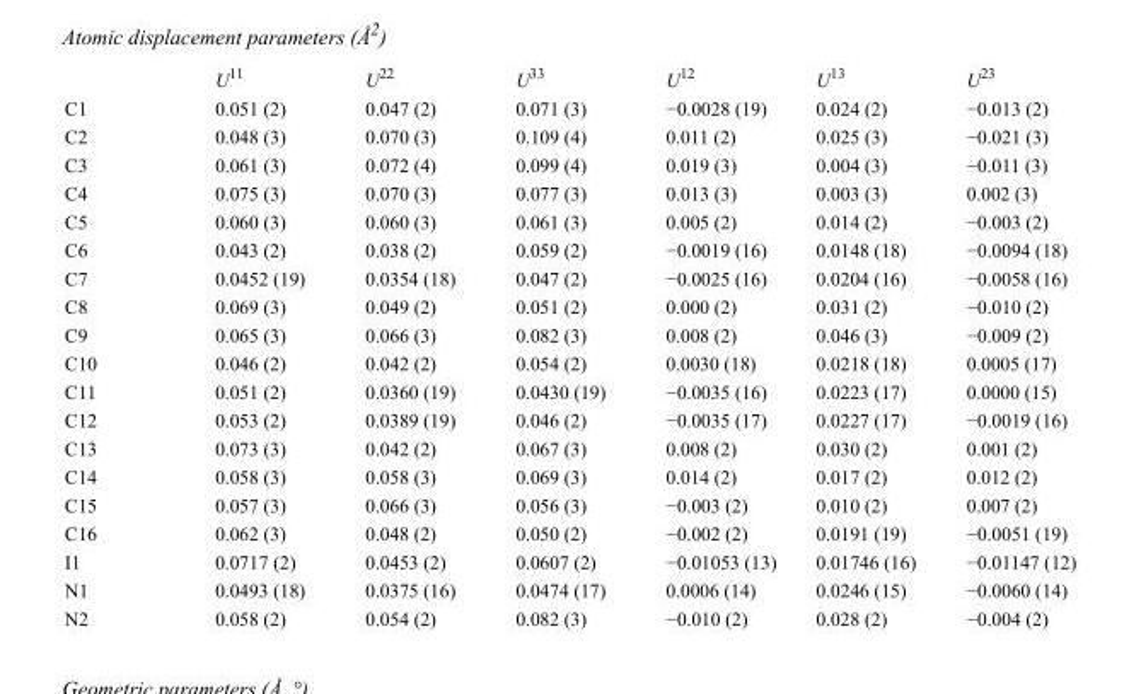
<table><thead><tr><td></td><td>U<sup>11</sup></td><td>U<sup>22</sup></td><td>U<sup>33</sup></td><td>U<sup>12</sup></td><td>U<sup>13</sup></td><td>U<sup>23</sup></td></tr></thead><tbody><tr><td>C1</td><td>0.051 (2)</td><td>0.047 (2)</td><td>0.071 (3)</td><td>−0.0028 (19)</td><td>0.024 (2)</td><td>−0.013 (2)</td></tr><tr><td>C2</td><td>0.048 (3)</td><td>0.070 (3)</td><td>0.109 (4)</td><td>0.011 (2)</td><td>0.025 (3)</td><td>−0.021 (3)</td></tr><tr><td>C3</td><td>0.061 (3)</td><td>0.072 (4)</td><td>0.099 (4)</td><td>0.019 (3)</td><td>0.004 (3)</td><td>−0.011 (3)</td></tr><tr><td>C4</td><td>0.075 (3)</td><td>0.070 (3)</td><td>0.077 (3)</td><td>0.013 (3)</td><td>0.003 (3)</td><td>0.002 (3)</td></tr><tr><td>C5</td><td>0.060 (3)</td><td>0.060 (3)</td><td>0.061 (3)</td><td>0.005 (2)</td><td>0.014 (2)</td><td>−0.003 (2)</td></tr><tr><td>C6</td><td>0.043 (2)</td><td>0.038 (2)</td><td>0.059 (2)</td><td>−0.0019 (16)</td><td>0.0148 (18)</td><td>−0.0094 (18)</td></tr><tr><td>C7</td><td>0.0452 (19)</td><td>0.0354 (18)</td><td>0.047 (2)</td><td>−0.0025 (16)</td><td>0.0204 (16)</td><td>−0.0058 (16)</td></tr><tr><td>C8</td><td>0.069 (3)</td><td>0.049 (2)</td><td>0.051 (2)</td><td>0.000 (2)</td><td>0.031 (2)</td><td>−0.010 (2)</td></tr><tr><td>C9</td><td>0.065 (3)</td><td>0.066 (3)</td><td>0.082 (3)</td><td>0.008 (2)</td><td>0.046 (3)</td><td>−0.009 (2)</td></tr><tr><td>C10</td><td>0.046 (2)</td><td>0.042 (2)</td><td>0.054 (2)</td><td>0.0030 (18)</td><td>0.0218 (18)</td><td>0.0005 (17)</td></tr><tr><td>C11</td><td>0.051 (2)</td><td>0.0360 (19)</td><td>0.0430 (19)</td><td>−0.0035 (16)</td><td>0.0223 (17)</td><td>0.0000 (15)</td></tr><tr><td>C12</td><td>0.053 (2)</td><td>0.0389 (19)</td><td>0.046 (2)</td><td>−0.0035 (17)</td><td>0.0227 (17)</td><td>−0.0019 (16)</td></tr><tr><td>C13</td><td>0.073 (3)</td><td>0.042 (2)</td><td>0.067 (3)</td><td>0.008 (2)</td><td>0.030 (2)</td><td>0.001 (2)</td></tr><tr><td>C14</td><td>0.058 (3)</td><td>0.058 (3)</td><td>0.069 (3)</td><td>0.014 (2)</td><td>0.017 (2)</td><td>0.012 (2)</td></tr><tr><td>C15</td><td>0.057 (3)</td><td>0.066 (3)</td><td>0.056 (3)</td><td>−0.003 (2)</td><td>0.010 (2)</td><td>0.007 (2)</td></tr><tr><td>C16</td><td>0.062 (3)</td><td>0.048 (2)</td><td>0.050 (2)</td><td>−0.002 (2)</td><td>0.0191 (19)</td><td>−0.0051 (19)</td></tr><tr><td>I1</td><td>0.0717 (2)</td><td>0.0453 (2)</td><td>0.0607 (2)</td><td>−0.01053 (13)</td><td>0.01746 (16)</td><td>−0.01147 (12)</td></tr><tr><td>N1</td><td>0.0493 (18)</td><td>0.0375 (16)</td><td>0.0474 (17)</td><td>0.0006 (14)</td><td>0.0246 (15)</td><td>−0.0060 (14)</td></tr><tr><td>N2</td><td>0.058 (2)</td><td>0.054 (2)</td><td>0.082 (3)</td><td>−0.010 (2)</td><td>0.028 (2)</td><td>−0.004 (2)</td></tr></tbody></table>